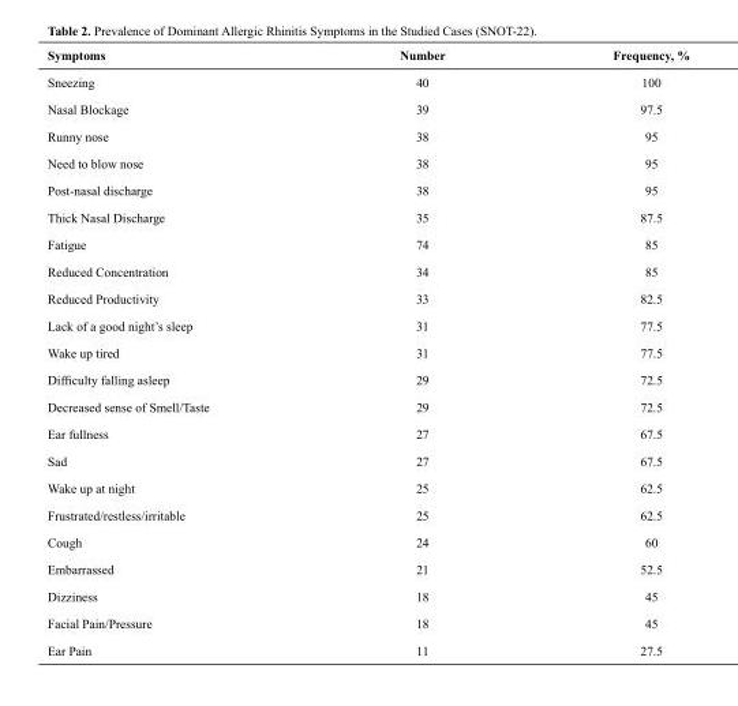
<table><thead><tr><td>Symptoms</td><td>Number</td><td>Frequency, %</td></tr></thead><tbody><tr><td>Sneezing</td><td>40</td><td>100</td></tr><tr><td>Nasal Blockage</td><td>39</td><td>97.5</td></tr><tr><td>Runny nose</td><td>38</td><td>95</td></tr><tr><td>Need to blow nose</td><td>38</td><td>95</td></tr><tr><td>Post-nasal discharge</td><td>38</td><td>95</td></tr><tr><td>Thick Nasal Discharge</td><td>35</td><td>87.5</td></tr><tr><td>Fatigue</td><td>74</td><td>85</td></tr><tr><td>Reduced Concentration</td><td>34</td><td>85</td></tr><tr><td>Reduced Productivity</td><td>33</td><td>82.5</td></tr><tr><td>Lack of a good night’s sleep</td><td>31</td><td>77.5</td></tr><tr><td>Wake up tired</td><td>31</td><td>77.5</td></tr><tr><td>Difficulty falling asleep</td><td>29</td><td>72.5</td></tr><tr><td>Decreased sense of Smell/Taste</td><td>29</td><td>72.5</td></tr><tr><td>Ear fullness</td><td>27</td><td>67.5</td></tr><tr><td>Sad</td><td>27</td><td>67.5</td></tr><tr><td>Wake up at night</td><td>25</td><td>62.5</td></tr><tr><td>Frustrated/restless/irritable</td><td>25</td><td>62.5</td></tr><tr><td>Cough</td><td>24</td><td>60</td></tr><tr><td>Embarrassed</td><td>21</td><td>52.5</td></tr><tr><td>Dizziness</td><td>18</td><td>45</td></tr><tr><td>Facial Pain/Pressure</td><td>18</td><td>45</td></tr><tr><td>Ear Pain</td><td>11</td><td>27.5</td></tr></tbody></table>